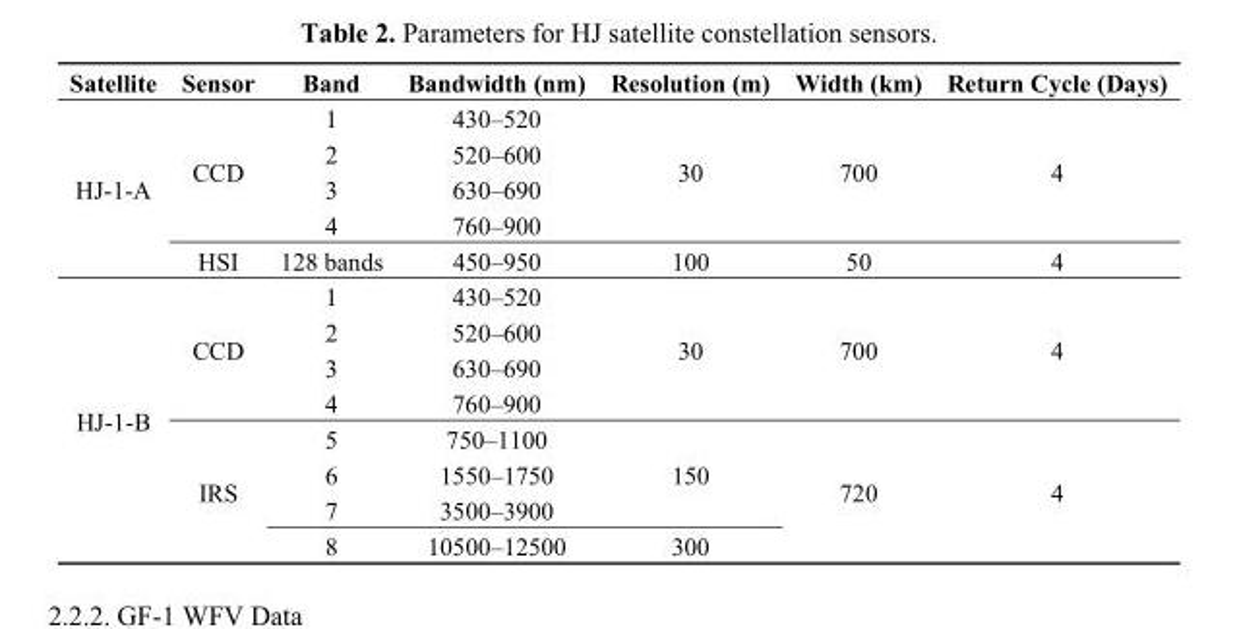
<table><thead><tr><td>Satellite</td><td>Sensor</td><td>Band</td><td>Bandwidth (nm)</td><td>Resolution (m)</td><td>Width (km)</td><td>Return Cycle (Days)</td></tr></thead><tbody><tr><td rowspan="5">HJ-1-A</td><td rowspan="4">CCD</td><td>1</td><td>430–520</td><td rowspan="4">30</td><td rowspan="4">700</td><td rowspan="4">4</td></tr><tr><td>2</td><td>520–600</td></tr><tr><td>3</td><td>630–690</td></tr><tr><td>4</td><td>760–900</td></tr><tr><td>HSI</td><td>128 bands</td><td>450–950</td><td>100</td><td>50</td><td>4</td></tr><tr><td rowspan="8">HJ-1-B</td><td rowspan="4">CCD</td><td>1</td><td>430–520</td><td rowspan="4">30</td><td rowspan="4">700</td><td rowspan="4">4</td></tr><tr><td>2</td><td>520–600</td></tr><tr><td>3</td><td>630–690</td></tr><tr><td>4</td><td>760–900</td></tr><tr><td rowspan="4">IRS</td><td>5</td><td>750–1100</td><td rowspan="3">150</td><td rowspan="4">720</td><td rowspan="4">4</td></tr><tr><td>6</td><td>1550–1750</td></tr><tr><td>7</td><td>3500–3900</td></tr><tr><td>8</td><td>10500–12500</td><td>300</td></tr></tbody></table>